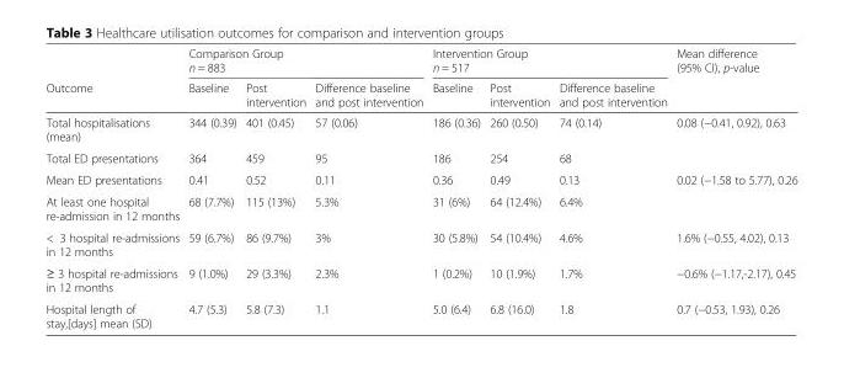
<table><thead><tr><td rowspan="2">Outcome</td><td colspan="2">Comparison Group n = 883</td><td rowspan="2">Difference baseline and post intervention</td><td colspan="2">Intervention Group n = 517</td><td rowspan="2">Difference baseline and post intervention</td><td rowspan="2">Mean difference (95% CI), p-value</td></tr><tr><td>Baseline</td><td>Post intervention</td><td>Baseline</td><td>Post intervention</td></tr></thead><tbody><tr><td>Total hospitalisations (mean)</td><td>344 (0.39)</td><td>401 (0.45)</td><td>57 (0.06)</td><td>186 (0.36)</td><td>260 (0.50)</td><td>74 (0.14)</td><td>0.08 (−0.41, 0.92), 0.63</td></tr><tr><td>Total ED presentations</td><td>364</td><td>459</td><td>95</td><td>186</td><td>254</td><td>68</td><td></td></tr><tr><td>Mean ED presentations</td><td>0.41</td><td>0.52</td><td>0.11</td><td>0.36</td><td>0.49</td><td>0.13</td><td>0.02 (−1.58 to 5.77), 0.26</td></tr><tr><td>At least one hospital re-admission in 12 months</td><td>68 (7.7%)</td><td>115 (13%)</td><td>5.3%</td><td>31 (6%)</td><td>64 (12.4%)</td><td>6.4%</td><td></td></tr><tr><td>&lt; 3 hospital re-admissions in 12 months</td><td>59 (6.7%)</td><td>86 (9.7%)</td><td>3%</td><td>30 (5.8%)</td><td>54 (10.4%)</td><td>4.6%</td><td>1.6% (−0.55, 4.02), 0.13</td></tr><tr><td>≥ 3 hospital re-admissions in 12 months</td><td>9 (1.0%)</td><td>29 (3.3%)</td><td>2.3%</td><td>1 (0.2%)</td><td>10 (1.9%)</td><td>1.7%</td><td>−0.6% (−1.17,-2.17), 0.45</td></tr><tr><td>Hospital length of stay,[days] mean (SD)</td><td>4.7 (5.3)</td><td>5.8 (7.3)</td><td>1.1</td><td>5.0 (6.4)</td><td>6.8 (16.0)</td><td>1.8</td><td>0.7 (−0.53, 1.93), 0.26</td></tr></tbody></table>